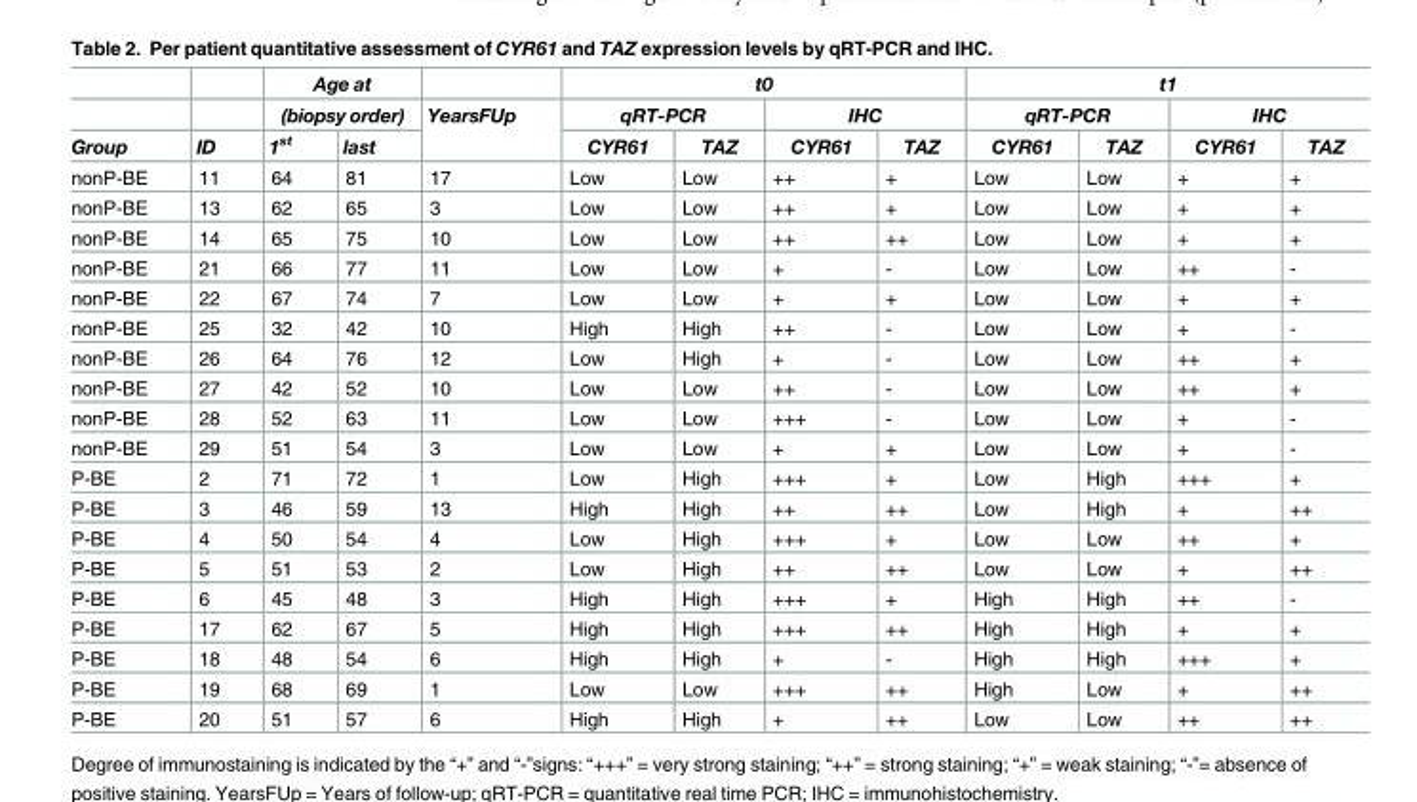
<table><thead><tr><td rowspan="3">Group</td><td rowspan="3">ID</td><td rowspan="2" colspan="2">Age at (biopsy order)</td><td rowspan="3">YearsFUp</td><td colspan="4">t0</td><td colspan="4">t1</td></tr><tr><td colspan="2">qRT-PCR</td><td colspan="2">IHC</td><td colspan="2">qRT-PCR</td><td colspan="2">IHC</td></tr><tr><td>1<sup>st</sup></td><td>last</td><td>CYR61</td><td>TAZ</td><td>CYR61</td><td>TAZ</td><td>CYR61</td><td>TAZ</td><td>CYR61</td><td>TAZ</td></tr></thead><tbody><tr><td>nonP-BE</td><td>11</td><td>64</td><td>81</td><td>17</td><td>Low</td><td>Low</td><td>++</td><td>+</td><td>Low</td><td>Low</td><td>+</td><td>+</td></tr><tr><td>nonP-BE</td><td>13</td><td>62</td><td>65</td><td>3</td><td>Low</td><td>Low</td><td>++</td><td>+</td><td>Low</td><td>Low</td><td>+</td><td>+</td></tr><tr><td>nonP-BE</td><td>14</td><td>65</td><td>75</td><td>10</td><td>Low</td><td>Low</td><td>++</td><td>++</td><td>Low</td><td>Low</td><td>+</td><td>+</td></tr><tr><td>nonP-BE</td><td>21</td><td>66</td><td>77</td><td>11</td><td>Low</td><td>Low</td><td>+</td><td>-</td><td>Low</td><td>Low</td><td>++</td><td>-</td></tr><tr><td>nonP-BE</td><td>22</td><td>67</td><td>74</td><td>7</td><td>Low</td><td>Low</td><td>+</td><td>+</td><td>Low</td><td>Low</td><td>+</td><td>+</td></tr><tr><td>nonP-BE</td><td>25</td><td>32</td><td>42</td><td>10</td><td>High</td><td>High</td><td>++</td><td>-</td><td>Low</td><td>Low</td><td>+</td><td>-</td></tr><tr><td>nonP-BE</td><td>26</td><td>64</td><td>76</td><td>12</td><td>Low</td><td>High</td><td>+</td><td>-</td><td>Low</td><td>Low</td><td>++</td><td>+</td></tr><tr><td>nonP-BE</td><td>27</td><td>42</td><td>52</td><td>10</td><td>Low</td><td>Low</td><td>++</td><td>-</td><td>Low</td><td>Low</td><td>++</td><td>+</td></tr><tr><td>nonP-BE</td><td>28</td><td>52</td><td>63</td><td>11</td><td>Low</td><td>Low</td><td>+++</td><td>-</td><td>Low</td><td>Low</td><td>+</td><td>-</td></tr><tr><td>nonP-BE</td><td>29</td><td>51</td><td>54</td><td>3</td><td>Low</td><td>Low</td><td>+</td><td>+</td><td>Low</td><td>Low</td><td>+</td><td>-</td></tr><tr><td>P-BE</td><td>2</td><td>71</td><td>72</td><td>1</td><td>Low</td><td>High</td><td>+++</td><td>+</td><td>Low</td><td>High</td><td>+++</td><td>+</td></tr><tr><td>P-BE</td><td>3</td><td>46</td><td>59</td><td>13</td><td>High</td><td>High</td><td>++</td><td>++</td><td>Low</td><td>High</td><td>+</td><td>++</td></tr><tr><td>P-BE</td><td>4</td><td>50</td><td>54</td><td>4</td><td>Low</td><td>High</td><td>+++</td><td>+</td><td>Low</td><td>Low</td><td>++</td><td>+</td></tr><tr><td>P-BE</td><td>5</td><td>51</td><td>53</td><td>2</td><td>Low</td><td>High</td><td>++</td><td>++</td><td>Low</td><td>Low</td><td>+</td><td>++</td></tr><tr><td>P-BE</td><td>6</td><td>45</td><td>48</td><td>3</td><td>High</td><td>High</td><td>+++</td><td>+</td><td>High</td><td>High</td><td>++</td><td>-</td></tr><tr><td>P-BE</td><td>17</td><td>62</td><td>67</td><td>5</td><td>High</td><td>High</td><td>+++</td><td>++</td><td>High</td><td>High</td><td>+</td><td>+</td></tr><tr><td>P-BE</td><td>18</td><td>48</td><td>54</td><td>6</td><td>High</td><td>High</td><td>+</td><td>-</td><td>High</td><td>High</td><td>+++</td><td>+</td></tr><tr><td>P-BE</td><td>19</td><td>68</td><td>69</td><td>1</td><td>Low</td><td>Low</td><td>+++</td><td>++</td><td>High</td><td>Low</td><td>+</td><td>++</td></tr><tr><td>P-BE</td><td>20</td><td>51</td><td>57</td><td>6</td><td>High</td><td>High</td><td>+</td><td>++</td><td>Low</td><td>Low</td><td>++</td><td>++</td></tr></tbody></table>